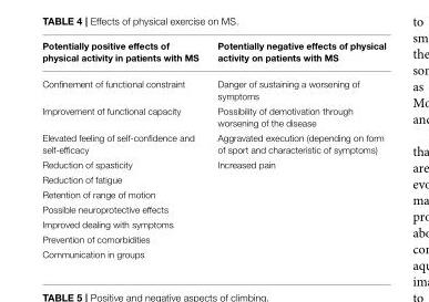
<table><thead><tr><td>Potentially positive effects of physical activity in patients with MS</td><td>Potentially negative effects of physical activity on patients with MS</td></tr></thead><tbody><tr><td>Confinement of functional constraint</td><td>Danger of sustaining a worsening of symptoms</td></tr><tr><td>Improvement of functional capacity</td><td>Possibility of demotivation through worsening of the disease</td></tr><tr><td>Elevated feeling of self-confidence and self-efficacy</td><td>Aggravated execution (depending on form of sport and characteristic of symptoms)</td></tr><tr><td>Reduction of spasticity</td><td>Increased pain</td></tr><tr><td colspan="2">Reduction of fatigue</td></tr><tr><td colspan="2">Retention of range of motion</td></tr><tr><td colspan="2">Possible neuroprotective effects</td></tr><tr><td colspan="2">Improved dealing with symptoms</td></tr><tr><td colspan="2">Prevention of comorbidities</td></tr><tr><td>Communication in groups</td><td></td></tr></tbody></table>